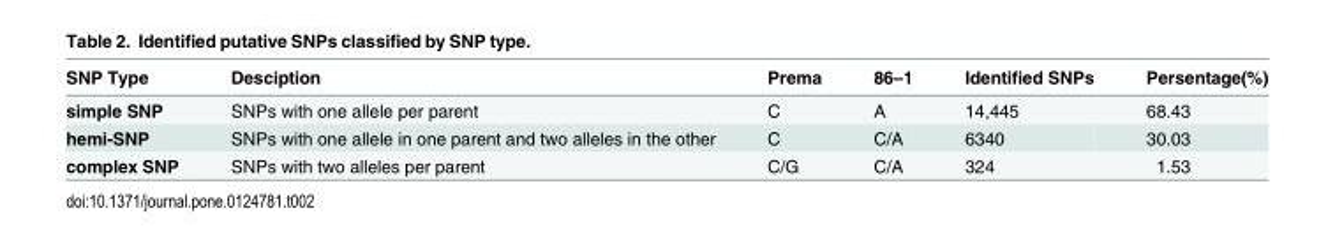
<table><thead><tr><td>SNP Type</td><td>Desciption</td><td>Prema</td><td>86–1</td><td>Identified SNPs</td><td>Persentage(%)</td></tr></thead><tbody><tr><td>simple SNP</td><td>SNPs with one allele per parent</td><td>C</td><td>A</td><td>14,445</td><td>68.43</td></tr><tr><td>hemi-SNP</td><td>SNPs with one allele in one parent and two alleles in the other</td><td>C</td><td>C/A</td><td>6340</td><td>30.03</td></tr><tr><td>complex SNP</td><td>SNPs with two alleles per parent</td><td>C/G</td><td>C/A</td><td>324</td><td>1.53</td></tr></tbody></table>